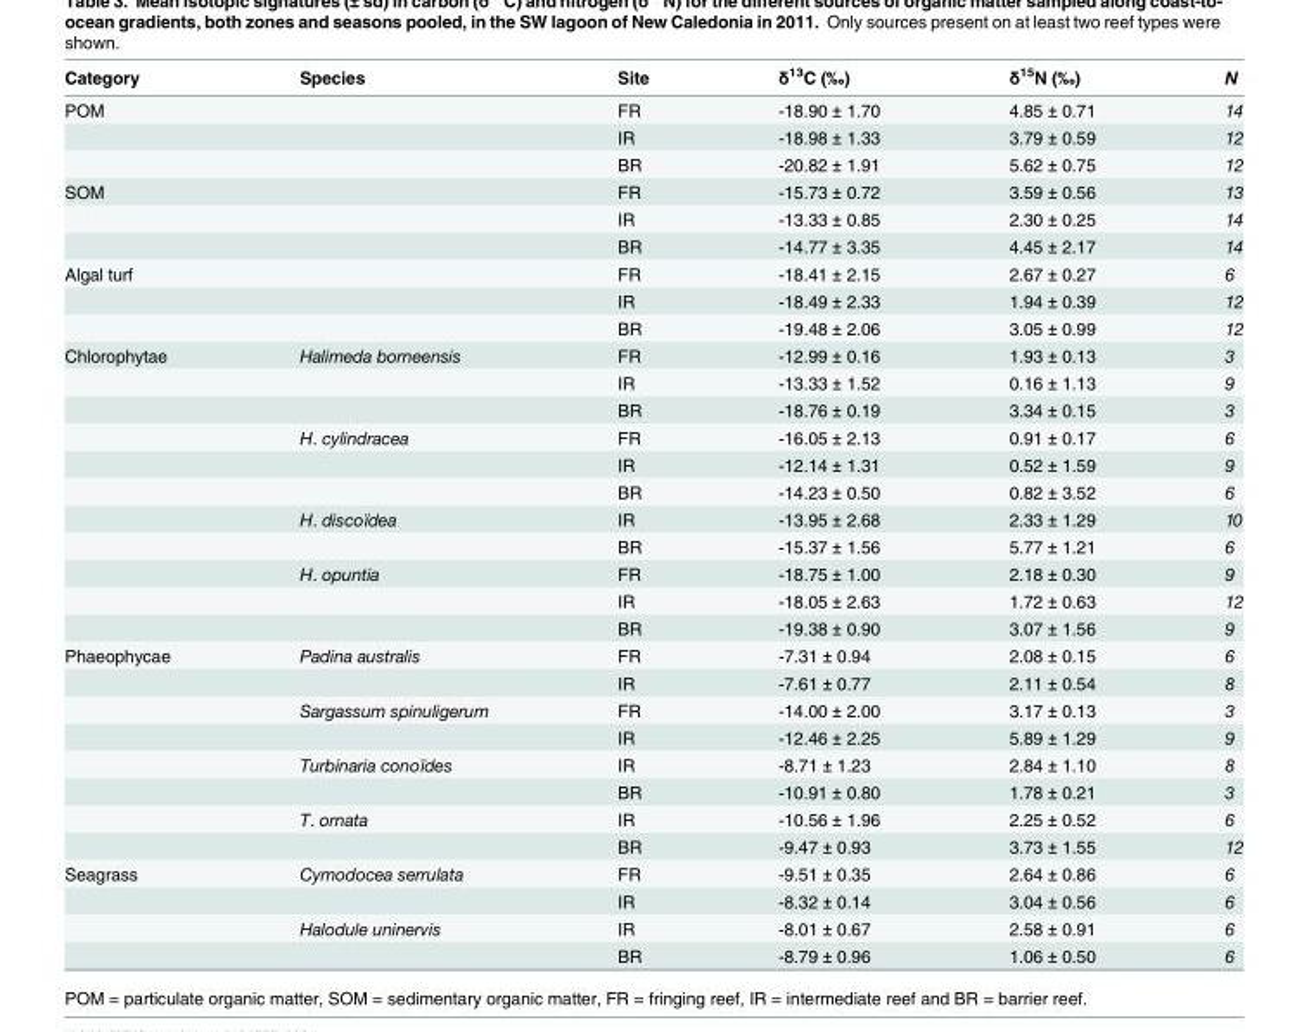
<table><thead><tr><td>Category</td><td>Species</td><td>Site</td><td>δ<sup>13</sup>C (‰)</td><td>δ<sup>15</sup>N (‰)</td><td>N</td></tr></thead><tbody><tr><td rowspan="3">POM</td><td></td><td>FR</td><td>-18.90 ± 1.70</td><td>4.85 ± 0.71</td><td>14</td></tr><tr><td></td><td>IR</td><td>-18.98 ± 1.33</td><td>3.79 ± 0.59</td><td>12</td></tr><tr><td></td><td>BR</td><td>-20.82 ± 1.91</td><td>5.62 ± 0.75</td><td>12</td></tr><tr><td rowspan="3">SOM</td><td></td><td>FR</td><td>-15.73 ± 0.72</td><td>3.59 ± 0.56</td><td>13</td></tr><tr><td></td><td>IR</td><td>-13.33 ± 0.85</td><td>2.30 ± 0.25</td><td>14</td></tr><tr><td></td><td>BR</td><td>-14.77 ± 3.35</td><td>4.45 ± 2.17</td><td>14</td></tr><tr><td rowspan="3">Algal turf</td><td></td><td>FR</td><td>-18.41 ± 2.15</td><td>2.67 ± 0.27</td><td>6</td></tr><tr><td></td><td>IR</td><td>-18.49 ± 2.33</td><td>1.94 ± 0.39</td><td>12</td></tr><tr><td></td><td>BR</td><td>-19.48 ± 2.06</td><td>3.05 ± 0.99</td><td>12</td></tr><tr><td rowspan="11">Chlorophytae</td><td>Halimeda borneensis</td><td>FR</td><td>-12.99 ± 0.16</td><td>1.93 ± 0.13</td><td>3</td></tr><tr><td></td><td>IR</td><td>-13.33 ± 1.52</td><td>0.16 ± 1.13</td><td>9</td></tr><tr><td></td><td>BR</td><td>-18.76 ± 0.19</td><td>3.34 ± 0.15</td><td>3</td></tr><tr><td>H. cylindracea</td><td>FR</td><td>-16.05 ± 2.13</td><td>0.91 ± 0.17</td><td>6</td></tr><tr><td></td><td>IR</td><td>-12.14 ± 1.31</td><td>0.52 ± 1.59</td><td>9</td></tr><tr><td></td><td>BR</td><td>-14.23 ± 0.50</td><td>0.82 ± 3.52</td><td>6</td></tr><tr><td>H. discoïdea</td><td>IR</td><td>-13.95 ± 2.68</td><td>2.33 ± 1.29</td><td>10</td></tr><tr><td></td><td>BR</td><td>-15.37 ± 1.56</td><td>5.77 ± 1.21</td><td>6</td></tr><tr><td>H. opuntia</td><td>FR</td><td>-18.75 ± 1.00</td><td>2.18 ± 0.30</td><td>9</td></tr><tr><td></td><td>IR</td><td>-18.05 ± 2.63</td><td>1.72 ± 0.63</td><td>12</td></tr><tr><td></td><td>BR</td><td>-19.38 ± 0.90</td><td>3.07 ± 1.56</td><td>9</td></tr><tr><td rowspan="8">Phaeophycae</td><td>Padina australis</td><td>FR</td><td>-7.31 ± 0.94</td><td>2.08 ± 0.15</td><td>6</td></tr><tr><td></td><td>IR</td><td>-7.61 ± 0.77</td><td>2.11 ± 0.54</td><td>8</td></tr><tr><td>Sargassum spinuligerum</td><td>FR</td><td>-14.00 ± 2.00</td><td>3.17 ± 0.13</td><td>3</td></tr><tr><td></td><td>IR</td><td>-12.46 ± 2.25</td><td>5.89 ± 1.29</td><td>9</td></tr><tr><td>Turbinaria conoïdes</td><td>IR</td><td>-8.71 ± 1.23</td><td>2.84 ± 1.10</td><td>8</td></tr><tr><td></td><td>BR</td><td>-10.91 ± 0.80</td><td>1.78 ± 0.21</td><td>3</td></tr><tr><td>T. ornata</td><td>IR</td><td>-10.56 ± 1.96</td><td>2.25 ± 0.52</td><td>6</td></tr><tr><td></td><td>BR</td><td>-9.47 ± 0.93</td><td>3.73 ± 1.55</td><td>12</td></tr><tr><td rowspan="4">Seagrass</td><td>Cymodocea serrulata</td><td>FR</td><td>-9.51 ± 0.35</td><td>2.64 ± 0.86</td><td>6</td></tr><tr><td></td><td>IR</td><td>-8.32 ± 0.14</td><td>3.04 ± 0.56</td><td>6</td></tr><tr><td>Halodule uninervis</td><td>IR</td><td>-8.01 ± 0.67</td><td>2.58 ± 0.91</td><td>6</td></tr><tr><td></td><td>BR</td><td>-8.79 ± 0.96</td><td>1.06 ± 0.50</td><td>6</td></tr></tbody></table>